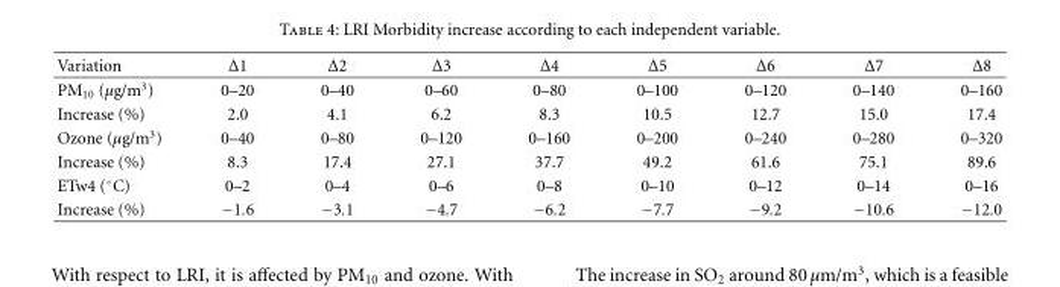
<table><thead><tr><td>Variation</td><td>Δ1</td><td>Δ2</td><td>Δ3</td><td>Δ4</td><td>Δ5</td><td>Δ6</td><td>Δ7</td><td>Δ8</td></tr></thead><tbody><tr><td>PM<sub>10</sub> (μg/m<sup>3</sup>)</td><td>0–20</td><td>0–40</td><td>0–60</td><td>0–80</td><td>0–100</td><td>0–120</td><td>0–140</td><td>0–160</td></tr><tr><td>Increase (%)</td><td>2.0</td><td>4.1</td><td>6.2</td><td>8.3</td><td>10.5</td><td>12.7</td><td>15.0</td><td>17.4</td></tr><tr><td>Ozone (μg/m<sup>3</sup>)</td><td>0–40</td><td>0–80</td><td>0–120</td><td>0–160</td><td>0–200</td><td>0–240</td><td>0–280</td><td>0–320</td></tr><tr><td>Increase (%)</td><td>8.3</td><td>17.4</td><td>27.1</td><td>37.7</td><td>49.2</td><td>61.6</td><td>75.1</td><td>89.6</td></tr><tr><td>ETw4 (◦C)</td><td>0–2</td><td>0–4</td><td>0–6</td><td>0–8</td><td>0–10</td><td>0–12</td><td>0–14</td><td>0–16</td></tr><tr><td>Increase (%)</td><td>−1.6</td><td>−3.1</td><td>−4.7</td><td>−6.2</td><td>−7.7</td><td>−9.2</td><td>−10.6</td><td>−12.0</td></tr></tbody></table>